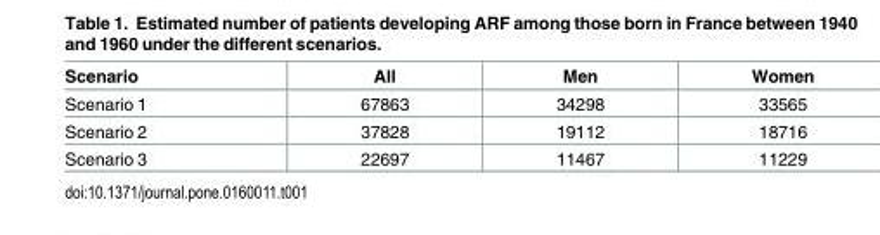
<table><thead><tr><td>Scenario</td><td>All</td><td>Men</td><td>Women</td></tr></thead><tbody><tr><td>Scenario 1</td><td>67863</td><td>34298</td><td>33565</td></tr><tr><td>Scenario 2</td><td>37828</td><td>19112</td><td>18716</td></tr><tr><td>Scenario 3</td><td>22697</td><td>11467</td><td>11229</td></tr></tbody></table>